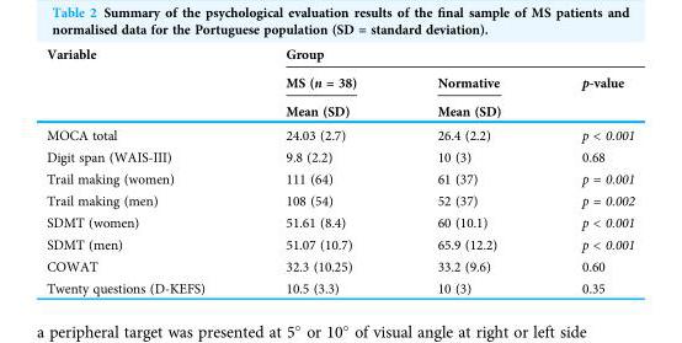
<table><thead><tr><td rowspan="3">Variable</td><td colspan="3">Group</td></tr><tr><td rowspan="2">MS (n = 38) Mean (SD)</td><td rowspan="2">Normative Mean (SD)</td><td rowspan="2">p-value</td></tr><tr></tr></thead><tbody><tr><td>MOCA total</td><td>24.03 (2.7)</td><td>26.4 (2.2)</td><td>p &lt; 0.001</td></tr><tr><td>Digit span (WAIS-III)</td><td>9.8 (2.2)</td><td>10 (3)</td><td>0.68</td></tr><tr><td>Trail making (women)</td><td>111 (64)</td><td>61 (37)</td><td>p = 0.001</td></tr><tr><td>Trail making (men)</td><td>108 (54)</td><td>52 (37)</td><td>p = 0.002</td></tr><tr><td>SDMT (women)</td><td>51.61 (8.4)</td><td>60 (10.1)</td><td>p &lt; 0.001</td></tr><tr><td>SDMT (men)</td><td>51.07 (10.7)</td><td>65.9 (12.2)</td><td>p &lt; 0.001</td></tr><tr><td>COWAT</td><td>32.3 (10.25)</td><td>33.2 (9.6)</td><td>0.60</td></tr><tr><td>Twenty questions (D-KEFS)</td><td>10.5 (3.3)</td><td>10 (3)</td><td>0.35</td></tr></tbody></table>